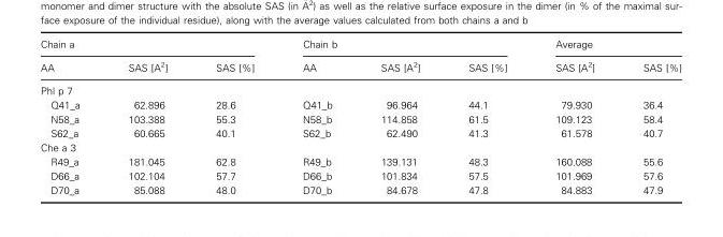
<table><thead><tr><td colspan="3">Chain a</td><td colspan="3">Chain b</td><td colspan="2">Average</td></tr><tr><td>AA</td><td>SAS [A<sup>2</sup>]</td><td>SAS [%]</td><td>AA</td><td>SAS [A<sup>2</sup>]</td><td>SAS [%]</td><td>SAS [A<sup>2</sup>]</td><td>SAS [%]</td></tr></thead><tbody><tr><td colspan="8">Phl p 7</td></tr><tr><td>Q41_a</td><td>62.896</td><td>28.6</td><td>Q41_b</td><td>96.964</td><td>44.1</td><td>79.930</td><td>36.4</td></tr><tr><td>N58_a</td><td>103.388</td><td>55.3</td><td>N58_b</td><td>114.858</td><td>61.5</td><td>109.123</td><td>58.4</td></tr><tr><td>S62_a</td><td>60.665</td><td>40.1</td><td>S62_b</td><td>62.490</td><td>41.3</td><td>61.578</td><td>40.7</td></tr><tr><td colspan="8">Che a 3</td></tr><tr><td>R49_a</td><td>181.045</td><td>62.8</td><td>R49_b</td><td>139.131</td><td>48.3</td><td>160.088</td><td>55.6</td></tr><tr><td>D66_a</td><td>102.104</td><td>57.7</td><td>D66_b</td><td>101.834</td><td>57.5</td><td>101.969</td><td>57.6</td></tr><tr><td>D70_a</td><td>85.088</td><td>48.0</td><td>D70_b</td><td>84.678</td><td>47.8</td><td>84.883</td><td>47.9</td></tr></tbody></table>